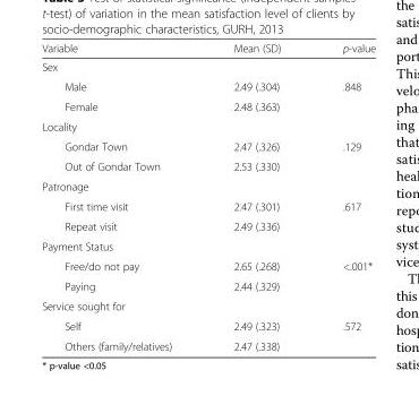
<table><thead><tr><td>Variable</td><td>Mean (SD)</td><td>p-value</td></tr></thead><tbody><tr><td colspan="3">Sex</td></tr><tr><td>Male</td><td>2.49 (.304)</td><td>.848</td></tr><tr><td>Female</td><td>2.48 (.363)</td><td></td></tr><tr><td colspan="3">Locality</td></tr><tr><td>Gondar Town</td><td>2.47 (.326)</td><td>.129</td></tr><tr><td>Out of Gondar Town</td><td>2.53 (.330)</td><td></td></tr><tr><td colspan="3">Patronage</td></tr><tr><td>First time visit</td><td>2.47 (.301)</td><td>.617</td></tr><tr><td>Repeat visit</td><td>2.49 (.336)</td><td></td></tr><tr><td colspan="3">Payment Status</td></tr><tr><td>Free/do not pay</td><td>2.65 (.268)</td><td>&lt;.001*</td></tr><tr><td>Paying</td><td>2.44 (.329)</td><td></td></tr><tr><td colspan="3">Service sought for</td></tr><tr><td>Self</td><td>2.49 (.323)</td><td>.572</td></tr><tr><td>Others (family/relatives)</td><td>2.47 (.338)</td><td></td></tr></tbody></table>